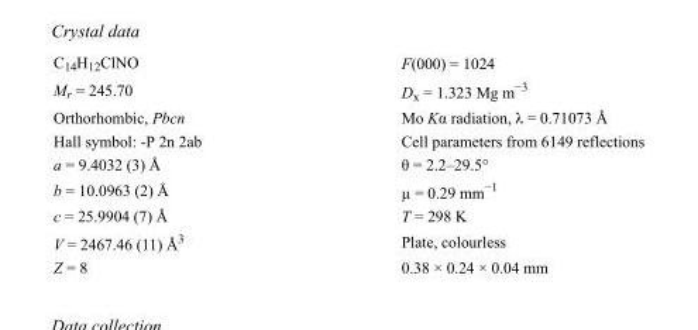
<table><tbody><tr><td>C<sub>14</sub>H<sub>12</sub>ClNO</td><td>F(000) = 1024</td></tr><tr><td>M<sub>r</sub> = 245.70</td><td>D<sub>x</sub> = 1.323 Mg m<sup>−3</sup></td></tr><tr><td>Orthorhombic, Pbcn</td><td>Mo Kα radiation, λ = 0.71073 Å</td></tr><tr><td>Hall symbol: -P 2n 2ab</td><td>Cell parameters from 6149 reflections</td></tr><tr><td>a = 9.4032 (3) Å</td><td>θ = 2.2–29.5°</td></tr><tr><td>b = 10.0963 (2) Å</td><td>µ = 0.29 mm<sup>−1</sup></td></tr><tr><td>c = 25.9904 (7) Å</td><td>T = 298 K</td></tr><tr><td>V = 2467.46 (11) Å<sup>3</sup></td><td>Plate, colourless</td></tr><tr><td>Z = 8</td><td>0.38 × 0.24 × 0.04 mm</td></tr></tbody></table>